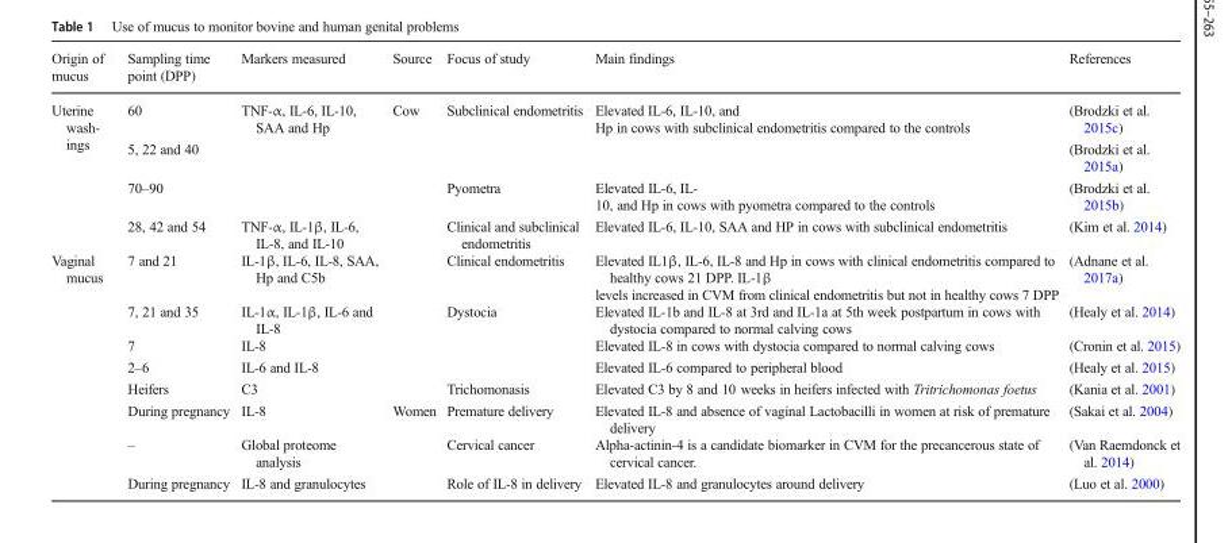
<table><thead><tr><td>Origin of mucus</td><td>Sampling time point (DPP)</td><td>Markers measured</td><td>Source</td><td>Focus of study</td><td>Main findings</td><td>References</td></tr></thead><tbody><tr><td rowspan="4">Uterine wash- ings</td><td>60</td><td rowspan="3">TNF-α, IL-6, IL-10, SAA and Hp</td><td rowspan="9">Cow</td><td rowspan="2">Subclinical endometritis</td><td rowspan="2">Elevated IL-6, IL-10, and Hp in cows with subclinical endometritis compared to the controls</td><td>(Brodzki et al. 2015c)</td></tr><tr><td>5, 22 and 40</td><td>(Brodzki et al. 2015a)</td></tr><tr><td>70–90</td><td>Pyometra</td><td>Elevated IL-6, IL- 10, and Hp in cows with pyometra compared to the controls</td><td>(Brodzki et al. 2015b)</td></tr><tr><td>28, 42 and 54</td><td>TNF-α, IL-1β, IL-6, IL-8, and IL-10</td><td>Clinical and subclinical endometritis</td><td>Elevated IL-6, IL-10, SAA and HP in cows with subclinical endometritis</td><td>(Kim et al. 2014)</td></tr><tr><td rowspan="8">Vaginal mucus</td><td>7 and 21</td><td>IL-1β, IL-6, IL-8, SAA, Hp and C5b</td><td>Clinical endometritis</td><td>Elevated IL1β, IL-6, IL-8 and Hp in cows with clinical endometritis compared to healthy cows 21 DPP. IL-1β levels increased in CVM from clinical endometritis but not in healthy cows 7 DPP</td><td>(Adnane et al. 2017a)</td></tr><tr><td>7, 21 and 35</td><td>IL-1α, IL-1β, IL-6 and IL-8</td><td rowspan="3">Dystocia</td><td>Elevated IL-1b and IL-8 at 3rd and IL-1a at 5th week postpartum in cows with dystocia compared to normal calving cows</td><td>(Healy et al. 2014)</td></tr><tr><td>7</td><td>IL-8</td><td>Elevated IL-8 in cows with dystocia compared to normal calving cows</td><td>(Cronin et al. 2015)</td></tr><tr><td>2–6</td><td>IL-6 and IL-8</td><td>Elevated IL-6 compared to peripheral blood</td><td>(Healy et al. 2015)</td></tr><tr><td>Heifers</td><td>C3</td><td>Trichomonasis</td><td>Elevated C3 by 8 and 10 weeks in heifers infected with Tritrichomonas foetus</td><td>(Kania et al. 2001)</td></tr><tr><td>During pregnancy</td><td>IL-8</td><td rowspan="3">Women</td><td>Premature delivery</td><td>Elevated IL-8 and absence of vaginal Lactobacilli in women at risk of premature delivery</td><td>(Sakai et al. 2004)</td></tr><tr><td>–</td><td>Global proteome analysis</td><td>Cervical cancer</td><td>Alpha-actinin-4 is a candidate biomarker in CVM for the precancerous state of cervical cancer.</td><td>(Van Raemdonck et al. 2014)</td></tr><tr><td>During pregnancy</td><td>IL-8 and granulocytes</td><td>Role of IL-8 in delivery</td><td>Elevated IL-8 and granulocytes around delivery</td><td>(Luo et al. 2000)</td></tr></tbody></table>